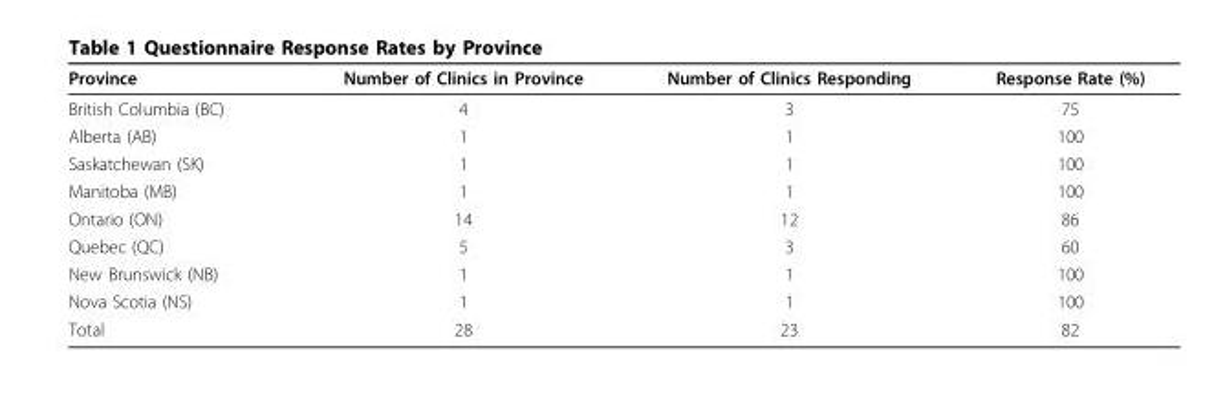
<table><thead><tr><td>Province</td><td>Number of Clinics in Province</td><td>Number of Clinics Responding</td><td>Response Rate (%)</td></tr></thead><tbody><tr><td>British Columbia (BC)</td><td>4</td><td>3</td><td>75</td></tr><tr><td>Alberta (AB)</td><td>1</td><td>1</td><td>100</td></tr><tr><td>Saskatchewan (SK)</td><td>1</td><td>1</td><td>100</td></tr><tr><td>Manitoba (MB)</td><td>1</td><td>1</td><td>100</td></tr><tr><td>Ontario (ON)</td><td>14</td><td>12</td><td>86</td></tr><tr><td>Quebec (QC)</td><td>5</td><td>3</td><td>60</td></tr><tr><td>New Brunswick (NB)</td><td>1</td><td>1</td><td>100</td></tr><tr><td>Nova Scotia (NS)</td><td>1</td><td>1</td><td>100</td></tr><tr><td>Total</td><td>28</td><td>23</td><td>82</td></tr></tbody></table>